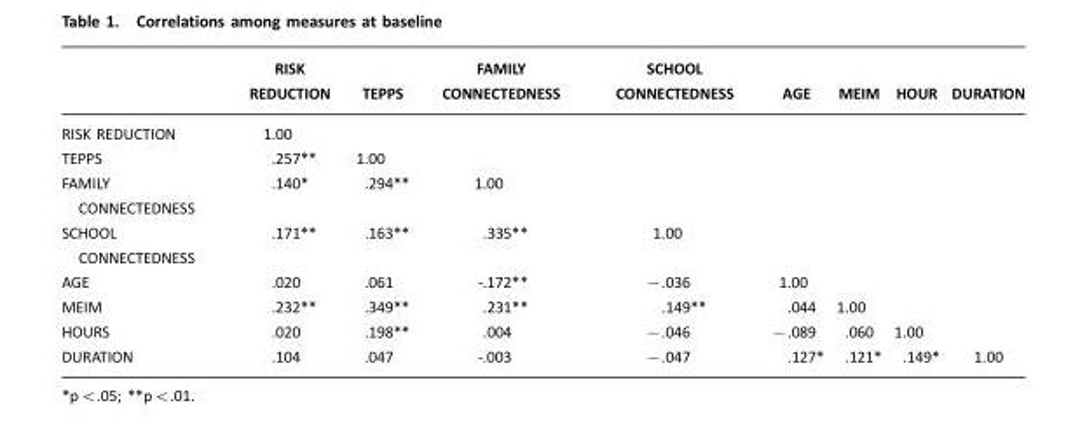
<table><thead><tr><td></td><td>RISK REDUCTION</td><td>TEPPS</td><td>FAMILY CONNECTEDNESS</td><td>SCHOOL CONNECTEDNESS</td><td>AGE</td><td>MEIM</td><td>HOUR</td><td>DURATION</td></tr></thead><tbody><tr><td>RISK REDUCTION</td><td>1.00</td><td></td><td></td><td></td><td></td><td></td><td></td><td></td></tr><tr><td>TEPPS</td><td>.257**</td><td>1.00</td><td></td><td></td><td></td><td></td><td></td><td></td></tr><tr><td>FAMILY CONNECTEDNESS</td><td>.140*</td><td>.294**</td><td>1.00</td><td></td><td></td><td></td><td></td><td></td></tr><tr><td>SCHOOL CONNECTEDNESS</td><td>.171**</td><td>.163**</td><td>.335**</td><td>1.00</td><td></td><td></td><td></td><td></td></tr><tr><td>AGE</td><td>.020</td><td>.061</td><td>-.172**</td><td>−.036</td><td>1.00</td><td></td><td></td><td></td></tr><tr><td>MEIM</td><td>.232**</td><td>.349**</td><td>.231**</td><td>.149**</td><td>.044</td><td>1.00</td><td></td><td></td></tr><tr><td>HOURS</td><td>.020</td><td>.198**</td><td>.004</td><td>−.046</td><td>−.089</td><td>.060</td><td>1.00</td><td></td></tr><tr><td>DURATION</td><td>.104</td><td>.047</td><td>-.003</td><td>−.047</td><td>.127*</td><td>.121*</td><td>.149*</td><td>1.00</td></tr></tbody></table>